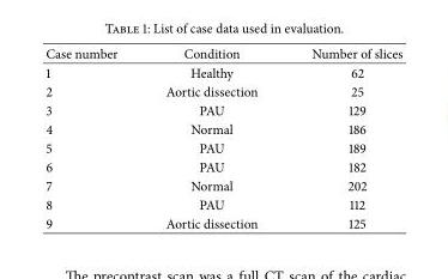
<table><thead><tr><td>Case number</td><td>Condition</td><td>Number of slices</td></tr></thead><tbody><tr><td>1</td><td>Healthy</td><td>62</td></tr><tr><td>2</td><td>Aortic dissection</td><td>25</td></tr><tr><td>3</td><td>PAU</td><td>129</td></tr><tr><td>4</td><td>Normal</td><td>186</td></tr><tr><td>5</td><td>PAU</td><td>189</td></tr><tr><td>6</td><td>PAU</td><td>182</td></tr><tr><td>7</td><td>Normal</td><td>202</td></tr><tr><td>8</td><td>PAU</td><td>112</td></tr><tr><td>9</td><td>Aortic dissection</td><td>125</td></tr></tbody></table>